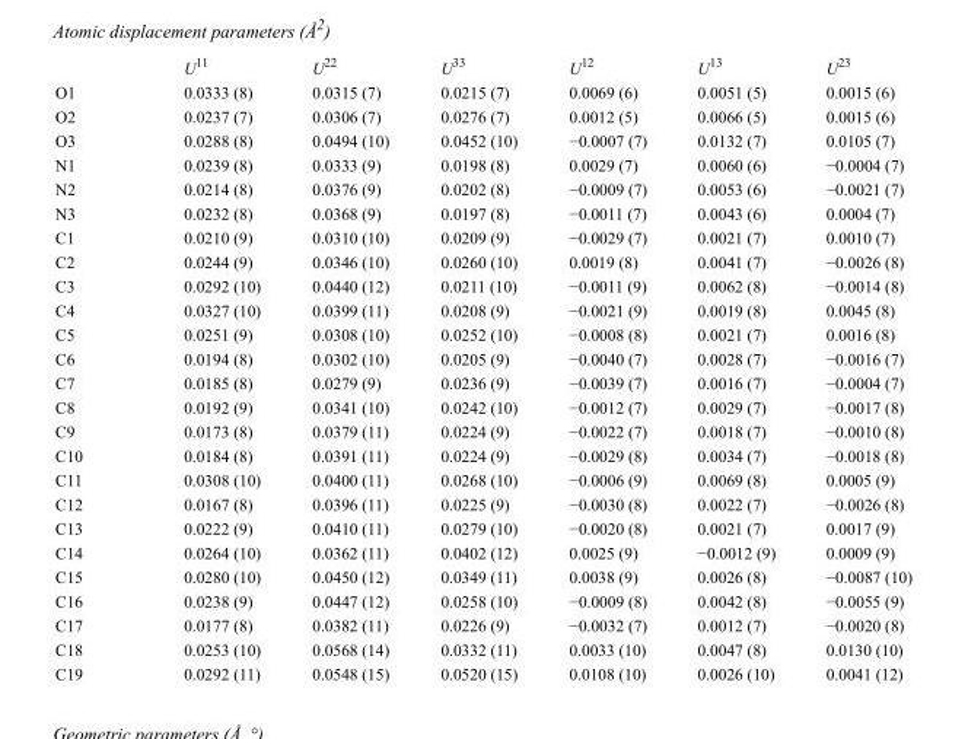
<table><thead><tr><td></td><td>U<sup>11</sup></td><td>U<sup>22</sup></td><td>U<sup>33</sup></td><td>U<sup>12</sup></td><td>U<sup>13</sup></td><td>U<sup>23</sup></td></tr></thead><tbody><tr><td>O1</td><td>0.0333 (8)</td><td>0.0315 (7)</td><td>0.0215 (7)</td><td>0.0069 (6)</td><td>0.0051 (5)</td><td>0.0015 (6)</td></tr><tr><td>O2</td><td>0.0237 (7)</td><td>0.0306 (7)</td><td>0.0276 (7)</td><td>0.0012 (5)</td><td>0.0066 (5)</td><td>0.0015 (6)</td></tr><tr><td>O3</td><td>0.0288 (8)</td><td>0.0494 (10)</td><td>0.0452 (10)</td><td>−0.0007 (7)</td><td>0.0132 (7)</td><td>0.0105 (7)</td></tr><tr><td>N1</td><td>0.0239 (8)</td><td>0.0333 (9)</td><td>0.0198 (8)</td><td>0.0029 (7)</td><td>0.0060 (6)</td><td>−0.0004 (7)</td></tr><tr><td>N2</td><td>0.0214 (8)</td><td>0.0376 (9)</td><td>0.0202 (8)</td><td>−0.0009 (7)</td><td>0.0053 (6)</td><td>−0.0021 (7)</td></tr><tr><td>N3</td><td>0.0232 (8)</td><td>0.0368 (9)</td><td>0.0197 (8)</td><td>−0.0011 (7)</td><td>0.0043 (6)</td><td>0.0004 (7)</td></tr><tr><td>C1</td><td>0.0210 (9)</td><td>0.0310 (10)</td><td>0.0209 (9)</td><td>−0.0029 (7)</td><td>0.0021 (7)</td><td>0.0010 (7)</td></tr><tr><td>C2</td><td>0.0244 (9)</td><td>0.0346 (10)</td><td>0.0260 (10)</td><td>0.0019 (8)</td><td>0.0041 (7)</td><td>−0.0026 (8)</td></tr><tr><td>C3</td><td>0.0292 (10)</td><td>0.0440 (12)</td><td>0.0211 (10)</td><td>−0.0011 (9)</td><td>0.0062 (8)</td><td>−0.0014 (8)</td></tr><tr><td>C4</td><td>0.0327 (10)</td><td>0.0399 (11)</td><td>0.0208 (9)</td><td>−0.0021 (9)</td><td>0.0019 (8)</td><td>0.0045 (8)</td></tr><tr><td>C5</td><td>0.0251 (9)</td><td>0.0308 (10)</td><td>0.0252 (10)</td><td>−0.0008 (8)</td><td>0.0021 (7)</td><td>0.0016 (8)</td></tr><tr><td>C6</td><td>0.0194 (8)</td><td>0.0302 (10)</td><td>0.0205 (9)</td><td>−0.0040 (7)</td><td>0.0028 (7)</td><td>−0.0016 (7)</td></tr><tr><td>C7</td><td>0.0185 (8)</td><td>0.0279 (9)</td><td>0.0236 (9)</td><td>−0.0039 (7)</td><td>0.0016 (7)</td><td>−0.0004 (7)</td></tr><tr><td>C8</td><td>0.0192 (9)</td><td>0.0341 (10)</td><td>0.0242 (10)</td><td>−0.0012 (7)</td><td>0.0029 (7)</td><td>−0.0017 (8)</td></tr><tr><td>C9</td><td>0.0173 (8)</td><td>0.0379 (11)</td><td>0.0224 (9)</td><td>−0.0022 (7)</td><td>0.0018 (7)</td><td>−0.0010 (8)</td></tr><tr><td>C10</td><td>0.0184 (8)</td><td>0.0391 (11)</td><td>0.0224 (9)</td><td>−0.0029 (8)</td><td>0.0034 (7)</td><td>−0.0018 (8)</td></tr><tr><td>C11</td><td>0.0308 (10)</td><td>0.0400 (11)</td><td>0.0268 (10)</td><td>−0.0006 (9)</td><td>0.0069 (8)</td><td>0.0005 (9)</td></tr><tr><td>C12</td><td>0.0167 (8)</td><td>0.0396 (11)</td><td>0.0225 (9)</td><td>−0.0030 (8)</td><td>0.0022 (7)</td><td>−0.0026 (8)</td></tr><tr><td>C13</td><td>0.0222 (9)</td><td>0.0410 (11)</td><td>0.0279 (10)</td><td>−0.0020 (8)</td><td>0.0021 (7)</td><td>0.0017 (9)</td></tr><tr><td>C14</td><td>0.0264 (10)</td><td>0.0362 (11)</td><td>0.0402 (12)</td><td>0.0025 (9)</td><td>−0.0012 (9)</td><td>0.0009 (9)</td></tr><tr><td>C15</td><td>0.0280 (10)</td><td>0.0450 (12)</td><td>0.0349 (11)</td><td>0.0038 (9)</td><td>0.0026 (8)</td><td>−0.0087 (10)</td></tr><tr><td>C16</td><td>0.0238 (9)</td><td>0.0447 (12)</td><td>0.0258 (10)</td><td>−0.0009 (8)</td><td>0.0042 (8)</td><td>−0.0055 (9)</td></tr><tr><td>C17</td><td>0.0177 (8)</td><td>0.0382 (11)</td><td>0.0226 (9)</td><td>−0.0032 (7)</td><td>0.0012 (7)</td><td>−0.0020 (8)</td></tr><tr><td>C18</td><td>0.0253 (10)</td><td>0.0568 (14)</td><td>0.0332 (11)</td><td>0.0033 (10)</td><td>0.0047 (8)</td><td>0.0130 (10)</td></tr><tr><td>C19</td><td>0.0292 (11)</td><td>0.0548 (15)</td><td>0.0520 (15)</td><td>0.0108 (10)</td><td>0.0026 (10)</td><td>0.0041 (12)</td></tr></tbody></table>